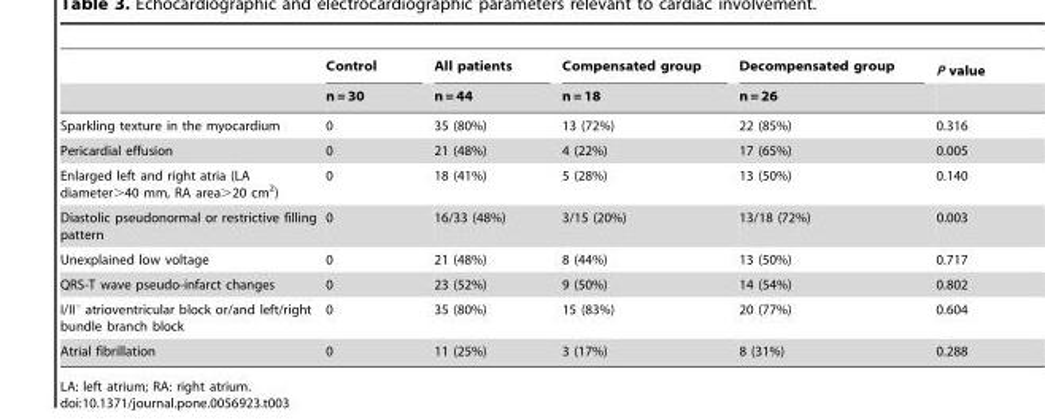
<table><thead><tr><td rowspan="2"></td><td rowspan="2">Control n = 30</td><td rowspan="2">All patients n = 44</td><td rowspan="2">Compensated group n = 18</td><td rowspan="2">Decompensated group n = 26</td><td rowspan="2">P value</td></tr><tr></tr></thead><tbody><tr><td>Sparkling texture in the myocardium</td><td>0</td><td>35 (80%)</td><td>13 (72%)</td><td>22 (85%)</td><td>0.316</td></tr><tr><td>Pericardial effusion</td><td>0</td><td>21 (48%)</td><td>4 (22%)</td><td>17 (65%)</td><td>0.005</td></tr><tr><td>Enlarged left and right atria (LA diameter&gt;40 mm, RA area&gt;20 cm<sup>2</sup>)</td><td>0</td><td>18 (41%)</td><td>5 (28%)</td><td>13 (50%)</td><td>0.140</td></tr><tr><td>Diastolic pseudonormal or restrictive filling pattern</td><td>0</td><td>16/33 (48%)</td><td>3/15 (20%)</td><td>13/18 (72%)</td><td>0.003</td></tr><tr><td>Unexplained low voltage</td><td>0</td><td>21 (48%)</td><td>8 (44%)</td><td>13 (50%)</td><td>0.717</td></tr><tr><td>QRS-T wave pseudo-infarct changes</td><td>0</td><td>23 (52%)</td><td>9 (50%)</td><td>14 (54%)</td><td>0.802</td></tr><tr><td>I/II° atrioventricular block or/and left/right bundle branch block</td><td>0</td><td>35 (80%)</td><td>15 (83%)</td><td>20 (77%)</td><td>0.604</td></tr><tr><td>Atrial fibrillation</td><td>0</td><td>11 (25%)</td><td>3 (17%)</td><td>8 (31%)</td><td>0.288</td></tr></tbody></table>